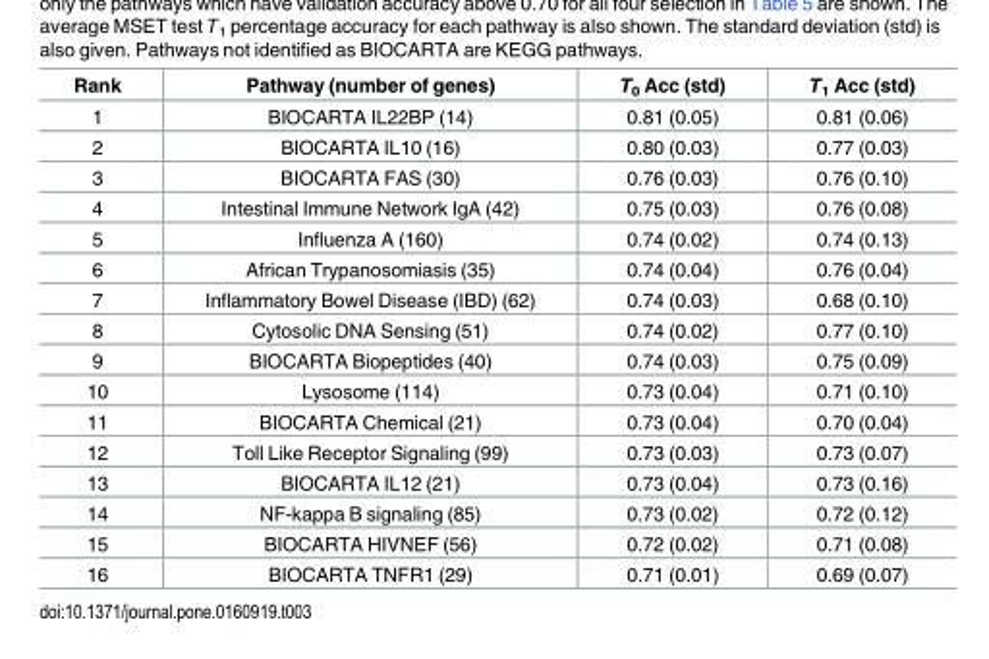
<table><thead><tr><td>Rank</td><td>Pathway (number of genes)</td><td>T<sub>0</sub> Acc (std)</td><td>T<sub>1</sub> Acc (std)</td></tr></thead><tbody><tr><td>1</td><td>BIOCARTA IL22BP (14)</td><td>0.81 (0.05)</td><td>0.81 (0.06)</td></tr><tr><td>2</td><td>BIOCARTA IL10 (16)</td><td>0.80 (0.03)</td><td>0.77 (0.03)</td></tr><tr><td>3</td><td>BIOCARTA FAS (30)</td><td>0.76 (0.03)</td><td>0.76 (0.10)</td></tr><tr><td>4</td><td>Intestinal Immune Network IgA (42)</td><td>0.75 (0.03)</td><td>0.76 (0.08)</td></tr><tr><td>5</td><td>Influenza A (160)</td><td>0.74 (0.02)</td><td>0.74 (0.13)</td></tr><tr><td>6</td><td>African Trypanosomiasis (35)</td><td>0.74 (0.04)</td><td>0.76 (0.04)</td></tr><tr><td>7</td><td>Inflammatory Bowel Disease (IBD) (62)</td><td>0.74 (0.03)</td><td>0.68 (0.10)</td></tr><tr><td>8</td><td>Cytosolic DNA Sensing (51)</td><td>0.74 (0.02)</td><td>0.77 (0.10)</td></tr><tr><td>9</td><td>BIOCARTA Biopeptides (40)</td><td>0.74 (0.03)</td><td>0.75 (0.09)</td></tr><tr><td>10</td><td>Lysosome (114)</td><td>0.73 (0.04)</td><td>0.71 (0.10)</td></tr><tr><td>11</td><td>BIOCARTA Chemical (21)</td><td>0.73 (0.04)</td><td>0.70 (0.04)</td></tr><tr><td>12</td><td>Toll Like Receptor Signaling (99)</td><td>0.73 (0.03)</td><td>0.73 (0.07)</td></tr><tr><td>13</td><td>BIOCARTA IL12 (21)</td><td>0.73 (0.04)</td><td>0.73 (0.16)</td></tr><tr><td>14</td><td>NF-kappa B signaling (85)</td><td>0.73 (0.02)</td><td>0.72 (0.12)</td></tr><tr><td>15</td><td>BIOCARTA HIVNEF (56)</td><td>0.72 (0.02)</td><td>0.71 (0.08)</td></tr><tr><td>16</td><td>BIOCARTA TNFR1 (29)</td><td>0.71 (0.01)</td><td>0.69 (0.07)</td></tr></tbody></table>